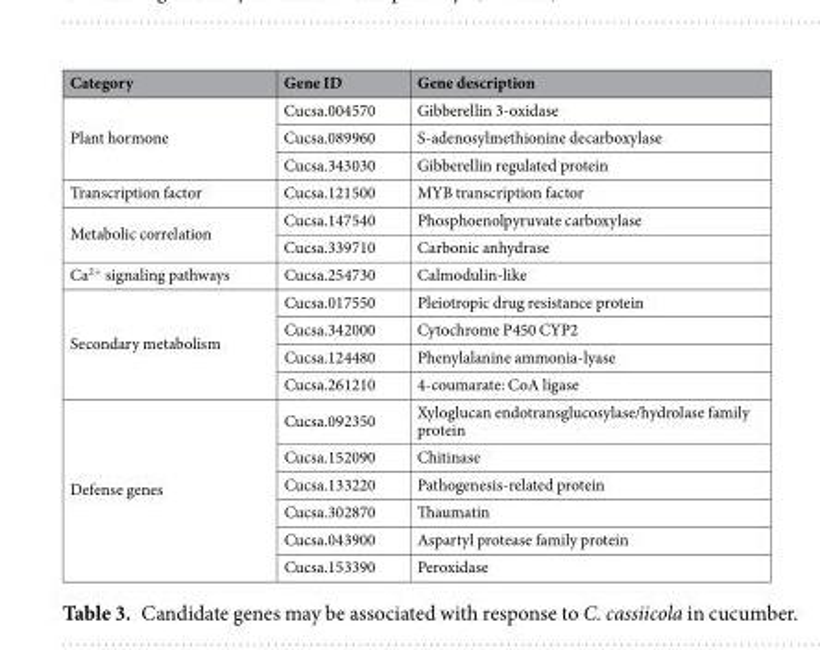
<table><thead><tr><td>Category</td><td>Gene ID</td><td>Gene description</td></tr></thead><tbody><tr><td rowspan="3">Plant hormone</td><td>Cucsa.004570</td><td>Gibberellin 3-oxidase</td></tr><tr><td>Cucsa.089960</td><td>S-adenosylmethionine decarboxylase</td></tr><tr><td>Cucsa.343030</td><td>Gibberellin regulated protein</td></tr><tr><td>Transcription factor</td><td>Cucsa.121500</td><td>MYB transcription factor</td></tr><tr><td rowspan="2">Metabolic correlation</td><td>Cucsa.147540</td><td>Phosphoenolpyruvate carboxylase</td></tr><tr><td>Cucsa.339710</td><td>Carbonic anhydrase</td></tr><tr><td>Ca<sup>2+</sup> signaling pathways</td><td>Cucsa.254730</td><td>Calmodulin-like</td></tr><tr><td rowspan="4">Secondary metabolism</td><td>Cucsa.017550</td><td>Pleiotropic drug resistance protein</td></tr><tr><td>Cucsa.342000</td><td>Cytochrome P450 CYP2</td></tr><tr><td>Cucsa.124480</td><td>Phenylalanine ammonia-lyase</td></tr><tr><td>Cucsa.261210</td><td>4-coumarate: CoA ligase</td></tr><tr><td rowspan="6">Defense genes</td><td>Cucsa.092350</td><td>Xyloglucan endotransglucosylase/hydrolase family protein</td></tr><tr><td>Cucsa.152090</td><td>Chitinase</td></tr><tr><td>Cucsa.133220</td><td>Pathogenesis-related protein</td></tr><tr><td>Cucsa.302870</td><td>Thaumatin</td></tr><tr><td>Cucsa.043900</td><td>Aspartyl protease family protein</td></tr><tr><td>Cucsa.153390</td><td>Peroxidase</td></tr></tbody></table>